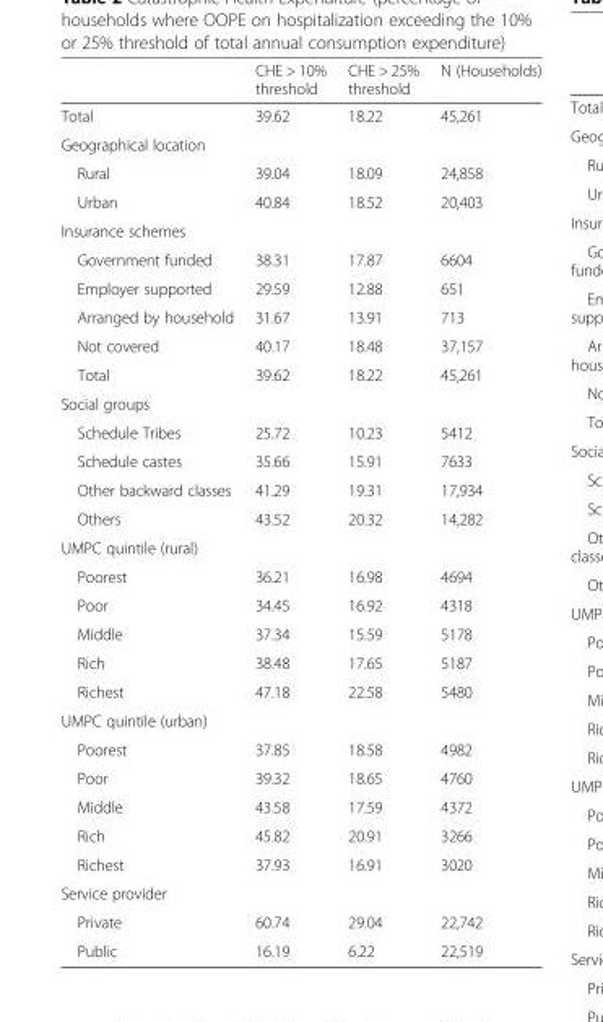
<table><thead><tr><td></td><td>CHE &gt; 10% threshold</td><td>CHE &gt; 25% threshold</td><td>N (Households)</td></tr></thead><tbody><tr><td>Total</td><td>39.62</td><td>18.22</td><td>45,261</td></tr><tr><td colspan="4">Geographical location</td></tr><tr><td>Rural</td><td>39.04</td><td>18.09</td><td>24,858</td></tr><tr><td>Urban</td><td>40.84</td><td>18.52</td><td>20,403</td></tr><tr><td colspan="4">Insurance schemes</td></tr><tr><td>Government funded</td><td>38.31</td><td>17.87</td><td>6604</td></tr><tr><td>Employer supported</td><td>29.59</td><td>12.88</td><td>651</td></tr><tr><td>Arranged by household</td><td>31.67</td><td>13.91</td><td>713</td></tr><tr><td>Not covered</td><td>40.17</td><td>18.48</td><td>37,157</td></tr><tr><td>Total</td><td>39.62</td><td>18.22</td><td>45,261</td></tr><tr><td colspan="4">Social groups</td></tr><tr><td>Schedule Tribes</td><td>25.72</td><td>10.23</td><td>5412</td></tr><tr><td>Schedule castes</td><td>35.66</td><td>15.91</td><td>7633</td></tr><tr><td>Other backward classes</td><td>41.29</td><td>19.31</td><td>17,934</td></tr><tr><td>Others</td><td>43.52</td><td>20.32</td><td>14,282</td></tr><tr><td colspan="4">UMPC quintile (rural)</td></tr><tr><td>Poorest</td><td>36.21</td><td>16.98</td><td>4694</td></tr><tr><td>Poor</td><td>34.45</td><td>16.92</td><td>4318</td></tr><tr><td>Middle</td><td>37.34</td><td>15.59</td><td>5178</td></tr><tr><td>Rich</td><td>38.48</td><td>17.65</td><td>5187</td></tr><tr><td>Richest</td><td>47.18</td><td>22.58</td><td>5480</td></tr><tr><td colspan="4">UMPC quintile (urban)</td></tr><tr><td>Poorest</td><td>37.85</td><td>18.58</td><td>4982</td></tr><tr><td>Poor</td><td>39.32</td><td>18.65</td><td>4760</td></tr><tr><td>Middle</td><td>43.58</td><td>17.59</td><td>4372</td></tr><tr><td>Rich</td><td>45.82</td><td>20.91</td><td>3266</td></tr><tr><td>Richest</td><td>37.93</td><td>16.91</td><td>3020</td></tr><tr><td colspan="4">Service provider</td></tr><tr><td>Private</td><td>60.74</td><td>29.04</td><td>22,742</td></tr><tr><td>Public</td><td>16.19</td><td>6.22</td><td>22,519</td></tr></tbody></table>